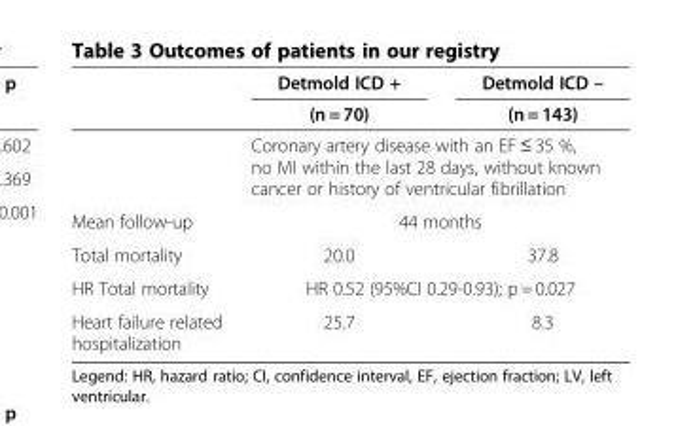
<table><thead><tr><td rowspan="2"></td><td rowspan="2">Detmold ICD + (n = 70)</td><td rowspan="2">Detmold ICD – (n = 143)</td></tr><tr></tr></thead><tbody><tr><td></td><td colspan="2">Coronary artery disease with an EF ≤ 35 %, no MI within the last 28 days, without known cancer or history of ventricular fibrillation</td></tr><tr><td>Mean follow-up</td><td colspan="2">44 months</td></tr><tr><td>Total mortality</td><td>20.0</td><td>37.8</td></tr><tr><td>HR Total mortality</td><td colspan="2">HR 0.52 (95%CI 0.29-0.93); p = 0.027</td></tr><tr><td>Heart failure related hospitalization</td><td>25.7</td><td>8.3</td></tr></tbody></table>